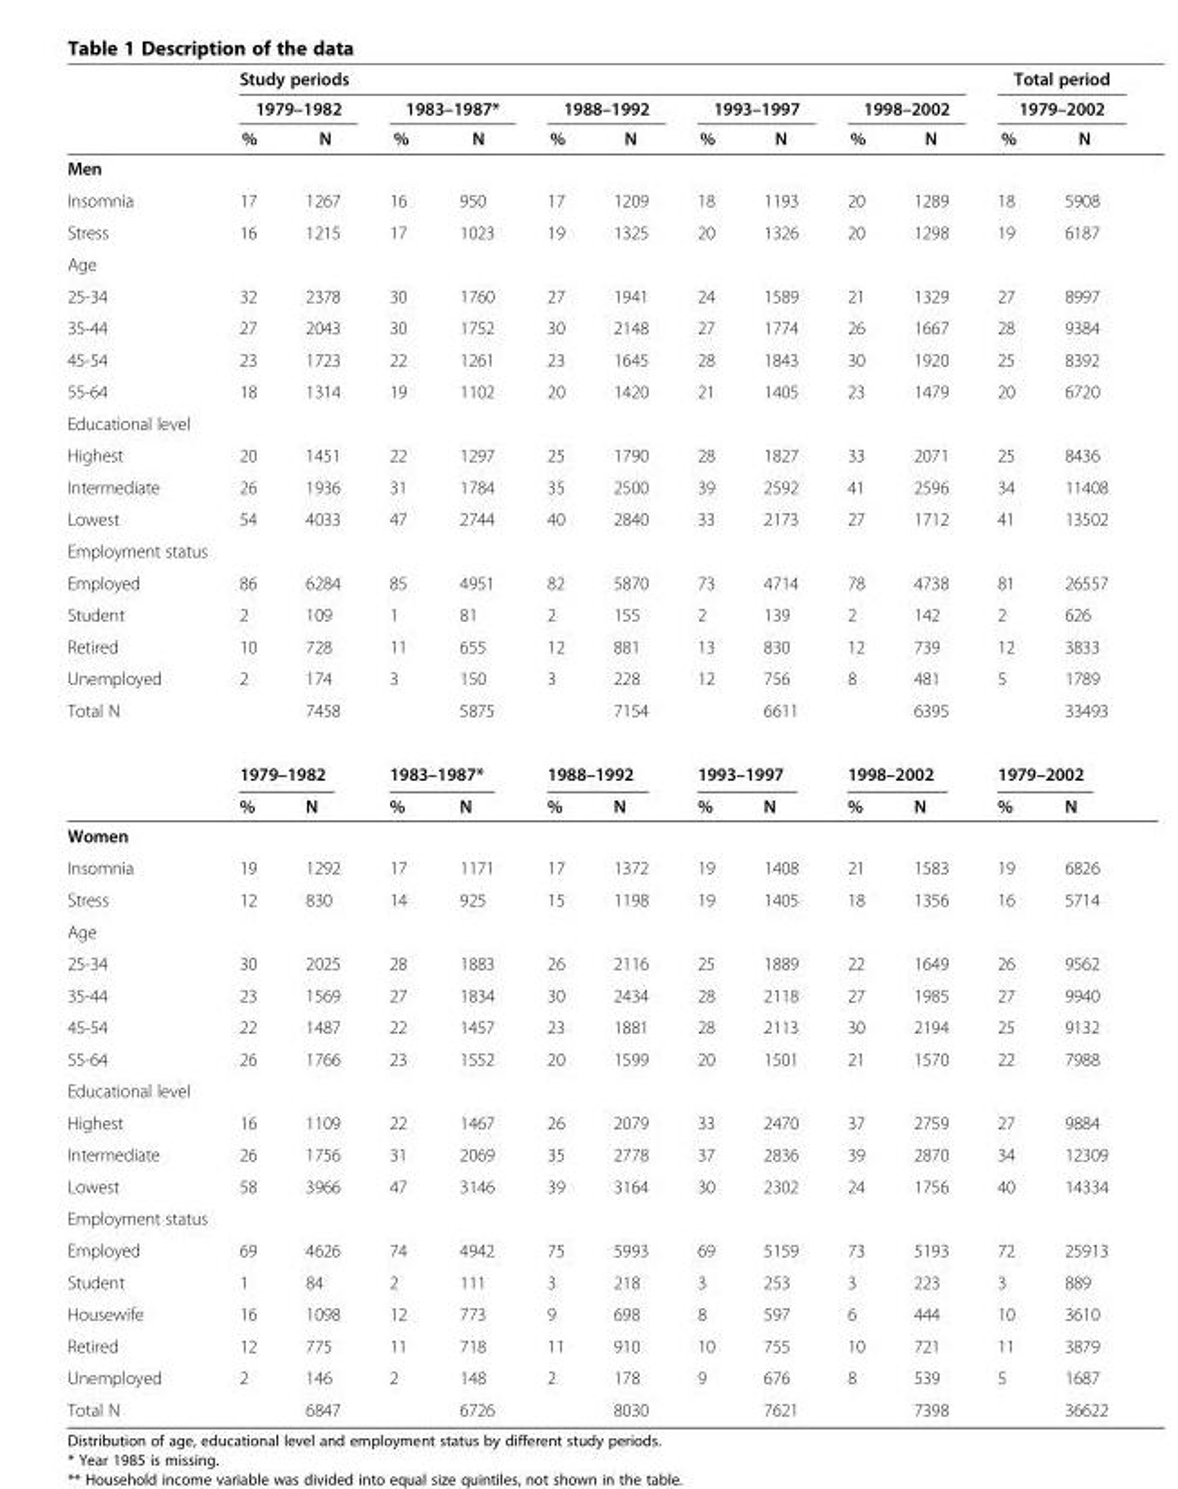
<table><thead><tr><td rowspan="3"></td><td colspan="10">Study periods</td><td rowspan="2" colspan="2">Total period 1979–2002</td></tr><tr><td colspan="2">1979–1982</td><td colspan="2">1983–1987*</td><td colspan="2">1988–1992</td><td colspan="2">1993–1997</td><td colspan="2">1998–2002</td></tr><tr><td>%</td><td>N</td><td>%</td><td>N</td><td>%</td><td>N</td><td>%</td><td>N</td><td>%</td><td>N</td><td>%</td><td>N</td></tr></thead><tbody><tr><td colspan="13">Men</td></tr><tr><td>Insomnia</td><td>17</td><td>1267</td><td>16</td><td>950</td><td>17</td><td>1209</td><td>18</td><td>1193</td><td>20</td><td>1289</td><td>18</td><td>5908</td></tr><tr><td>Stress</td><td>16</td><td>1215</td><td>17</td><td>1023</td><td>19</td><td>1325</td><td>20</td><td>1326</td><td>20</td><td>1298</td><td>19</td><td>6187</td></tr><tr><td colspan="13">Age</td></tr><tr><td>25-34</td><td>32</td><td>2378</td><td>30</td><td>1760</td><td>27</td><td>1941</td><td>24</td><td>1589</td><td>21</td><td>1329</td><td>27</td><td>8997</td></tr><tr><td>35-44</td><td>27</td><td>2043</td><td>30</td><td>1752</td><td>30</td><td>2148</td><td>27</td><td>1774</td><td>26</td><td>1667</td><td>28</td><td>9384</td></tr><tr><td>45-54</td><td>23</td><td>1723</td><td>22</td><td>1261</td><td>23</td><td>1645</td><td>28</td><td>1843</td><td>30</td><td>1920</td><td>25</td><td>8392</td></tr><tr><td>55-64</td><td>18</td><td>1314</td><td>19</td><td>1102</td><td>20</td><td>1420</td><td>21</td><td>1405</td><td>23</td><td>1479</td><td>20</td><td>6720</td></tr><tr><td colspan="13">Educational level</td></tr><tr><td>Highest</td><td>20</td><td>1451</td><td>22</td><td>1297</td><td>25</td><td>1790</td><td>28</td><td>1827</td><td>33</td><td>2071</td><td>25</td><td>8436</td></tr><tr><td>Intermediate</td><td>26</td><td>1936</td><td>31</td><td>1784</td><td>35</td><td>2500</td><td>39</td><td>2592</td><td>41</td><td>2596</td><td>34</td><td>11408</td></tr><tr><td>Lowest</td><td>54</td><td>4033</td><td>47</td><td>2744</td><td>40</td><td>2840</td><td>33</td><td>2173</td><td>27</td><td>1712</td><td>41</td><td>13502</td></tr><tr><td colspan="13">Employment status</td></tr><tr><td>Employed</td><td>86</td><td>6284</td><td>85</td><td>4951</td><td>82</td><td>5870</td><td>73</td><td>4714</td><td>78</td><td>4738</td><td>81</td><td>26557</td></tr><tr><td>Student</td><td>2</td><td>109</td><td>1</td><td>81</td><td>2</td><td>155</td><td>2</td><td>139</td><td>2</td><td>142</td><td>2</td><td>626</td></tr><tr><td>Retired</td><td>10</td><td>728</td><td>11</td><td>655</td><td>12</td><td>881</td><td>13</td><td>830</td><td>12</td><td>739</td><td>12</td><td>3833</td></tr><tr><td>Unemployed</td><td>2</td><td>174</td><td>3</td><td>150</td><td>3</td><td>228</td><td>12</td><td>756</td><td>8</td><td>481</td><td>5</td><td>1789</td></tr><tr><td rowspan="3">Total N</td><td></td><td>7458</td><td></td><td>5875</td><td></td><td>7154</td><td></td><td>6611</td><td></td><td>6395</td><td></td><td>33493</td></tr><tr><td colspan="2">1979–1982</td><td colspan="2">1983–1987*</td><td colspan="2">1988–1992</td><td colspan="2">1993–1997</td><td colspan="2">1998–2002</td><td colspan="2">1979–2002</td></tr><tr><td>%</td><td>N</td><td>%</td><td>N</td><td>%</td><td>N</td><td>%</td><td>N</td><td>%</td><td>N</td><td>%</td><td>N</td></tr><tr><td colspan="13">Women</td></tr><tr><td>Insomnia</td><td>19</td><td>1292</td><td>17</td><td>1171</td><td>17</td><td>1372</td><td>19</td><td>1408</td><td>21</td><td>1583</td><td>19</td><td>6826</td></tr><tr><td>Stress</td><td>12</td><td>830</td><td>14</td><td>925</td><td>15</td><td>1198</td><td>19</td><td>1405</td><td>18</td><td>1356</td><td>16</td><td>5714</td></tr><tr><td colspan="13">Age</td></tr><tr><td>25-34</td><td>30</td><td>2025</td><td>28</td><td>1883</td><td>26</td><td>2116</td><td>25</td><td>1889</td><td>22</td><td>1649</td><td>26</td><td>9562</td></tr><tr><td>35-44</td><td>23</td><td>1569</td><td>27</td><td>1834</td><td>30</td><td>2434</td><td>28</td><td>2118</td><td>27</td><td>1985</td><td>27</td><td>9940</td></tr><tr><td>45-54</td><td>22</td><td>1487</td><td>22</td><td>1457</td><td>23</td><td>1881</td><td>28</td><td>2113</td><td>30</td><td>2194</td><td>25</td><td>9132</td></tr><tr><td>55-64</td><td>26</td><td>1766</td><td>23</td><td>1552</td><td>20</td><td>1599</td><td>20</td><td>1501</td><td>21</td><td>1570</td><td>22</td><td>7988</td></tr><tr><td colspan="13">Educational level</td></tr><tr><td>Highest</td><td>16</td><td>1109</td><td>22</td><td>1467</td><td>26</td><td>2079</td><td>33</td><td>2470</td><td>37</td><td>2759</td><td>27</td><td>9884</td></tr><tr><td>Intermediate</td><td>26</td><td>1756</td><td>31</td><td>2069</td><td>35</td><td>2778</td><td>37</td><td>2836</td><td>39</td><td>2870</td><td>34</td><td>12309</td></tr><tr><td>Lowest</td><td>58</td><td>3966</td><td>47</td><td>3146</td><td>39</td><td>3164</td><td>30</td><td>2302</td><td>24</td><td>1756</td><td>40</td><td>14334</td></tr><tr><td colspan="13">Employment status</td></tr><tr><td>Employed</td><td>69</td><td>4626</td><td>74</td><td>4942</td><td>75</td><td>5993</td><td>69</td><td>5159</td><td>73</td><td>5193</td><td>72</td><td>25913</td></tr><tr><td>Student</td><td>1</td><td>84</td><td>2</td><td>111</td><td>3</td><td>218</td><td>3</td><td>253</td><td>3</td><td>223</td><td>3</td><td>889</td></tr><tr><td>Housewife</td><td>16</td><td>1098</td><td>12</td><td>773</td><td>9</td><td>698</td><td>8</td><td>597</td><td>6</td><td>444</td><td>10</td><td>3610</td></tr><tr><td>Retired</td><td>12</td><td>775</td><td>11</td><td>718</td><td>11</td><td>910</td><td>10</td><td>755</td><td>10</td><td>721</td><td>11</td><td>3879</td></tr><tr><td>Unemployed</td><td>2</td><td>146</td><td>2</td><td>148</td><td>2</td><td>178</td><td>9</td><td>676</td><td>8</td><td>539</td><td>5</td><td>1687</td></tr><tr><td>Total N</td><td></td><td>6847</td><td></td><td>6726</td><td></td><td>8030</td><td></td><td>7621</td><td></td><td>7398</td><td></td><td>36622</td></tr></tbody></table>